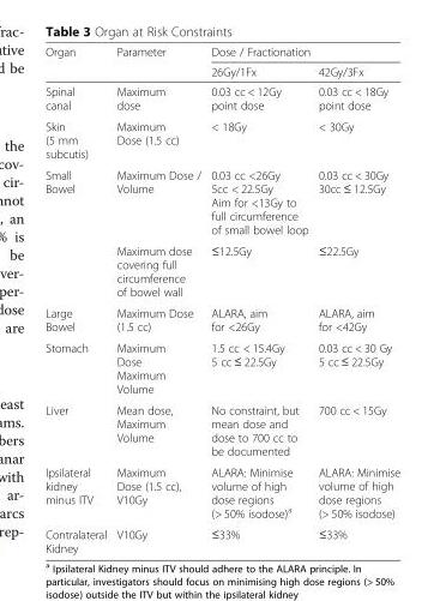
<table><thead><tr><td rowspan="2">Organ</td><td rowspan="2">Parameter</td><td colspan="2">Dose / Fractionation</td></tr><tr><td>26Gy/1Fx</td><td>42Gy/3Fx</td></tr></thead><tbody><tr><td>Spinal canal</td><td>Maximum dose</td><td>0.03 cc &lt; 12Gy point dose</td><td>0.03 cc &lt; 18Gy point dose</td></tr><tr><td>Skin (5 mm subcutis)</td><td>Maximum Dose (1.5 cc)</td><td>&lt; 18Gy</td><td>&lt; 30Gy</td></tr><tr><td rowspan="2">Small Bowel</td><td>Maximum Dose / Volume</td><td>0.03 cc &lt;26Gy 5cc &lt; 22.5Gy Aim for &lt;13Gy to full circumference of small bowel loop</td><td>0.03 cc &lt; 30Gy 30cc ≤ 12.5Gy</td></tr><tr><td>Maximum dose covering full circumference of bowel wall</td><td>≤12.5Gy</td><td>≤22.5Gy</td></tr><tr><td>Large Bowel</td><td>Maximum Dose (1.5 cc)</td><td>ALARA, aim for &lt;26Gy</td><td>ALARA, aim for &lt;42Gy</td></tr><tr><td>Stomach</td><td>Maximum Dose Maximum Volume</td><td>1.5 cc &lt; 15.4Gy 5 cc ≤ 22.5Gy</td><td>0.03 cc &lt; 30 Gy 5 cc ≤ 22.5Gy</td></tr><tr><td>Liver</td><td>Mean dose, Maximum Volume</td><td>No constraint, but mean dose and dose to 700 cc to be documented</td><td>700 cc &lt; 15Gy</td></tr><tr><td>Ipsilateral kidney minus ITV</td><td>Maximum Dose (1.5 cc), V10Gy</td><td>ALARA: Minimise volume of high dose regions (&gt; 50% isodose)<sup>a</sup></td><td>ALARA: Minimise volume of high dose regions (&gt; 50% isodose)</td></tr><tr><td>Contralateral Kidney</td><td>V10Gy</td><td>≤33%</td><td>≤33%</td></tr></tbody></table>